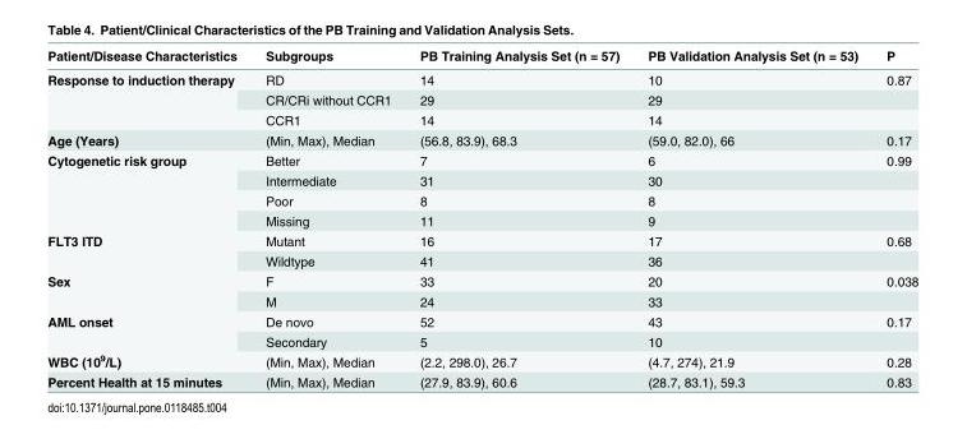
<table><thead><tr><td>Patient/Disease Characteristics</td><td>Subgroups</td><td>PB Training Analysis Set (n = 57)</td><td>PB Validation Analysis Set (n = 53)</td><td>P</td></tr></thead><tbody><tr><td rowspan="3">Response to induction therapy</td><td>RD</td><td>14</td><td>10</td><td>0.87</td></tr><tr><td>CR/CRi without CCR1</td><td>29</td><td>29</td><td></td></tr><tr><td>CCR1</td><td>14</td><td>14</td><td></td></tr><tr><td>Age (Years)</td><td>(Min, Max), Median</td><td>(56.8, 83.9), 68.3</td><td>(59.0, 82.0), 66</td><td>0.17</td></tr><tr><td rowspan="4">Cytogenetic risk group</td><td>Better</td><td>7</td><td>6</td><td>0.99</td></tr><tr><td>Intermediate</td><td>31</td><td>30</td><td></td></tr><tr><td>Poor</td><td>8</td><td>8</td><td></td></tr><tr><td>Missing</td><td>11</td><td>9</td><td></td></tr><tr><td rowspan="2">FLT3 ITD</td><td>Mutant</td><td>16</td><td>17</td><td>0.68</td></tr><tr><td>Wildtype</td><td>41</td><td>36</td><td></td></tr><tr><td rowspan="2">Sex</td><td>F</td><td>33</td><td>20</td><td>0.038</td></tr><tr><td>M</td><td>24</td><td>33</td><td></td></tr><tr><td rowspan="2">AML onset</td><td>De novo</td><td>52</td><td>43</td><td>0.17</td></tr><tr><td>Secondary</td><td>5</td><td>10</td><td></td></tr><tr><td>WBC (10<sup>9</sup>/L)</td><td>(Min, Max), Median</td><td>(2.2, 298.0), 26.7</td><td>(4.7, 274), 21.9</td><td>0.28</td></tr><tr><td>Percent Health at 15 minutes</td><td>(Min, Max), Median</td><td>(27.9, 83.9), 60.6</td><td>(28.7, 83.1), 59.3</td><td>0.83</td></tr></tbody></table>